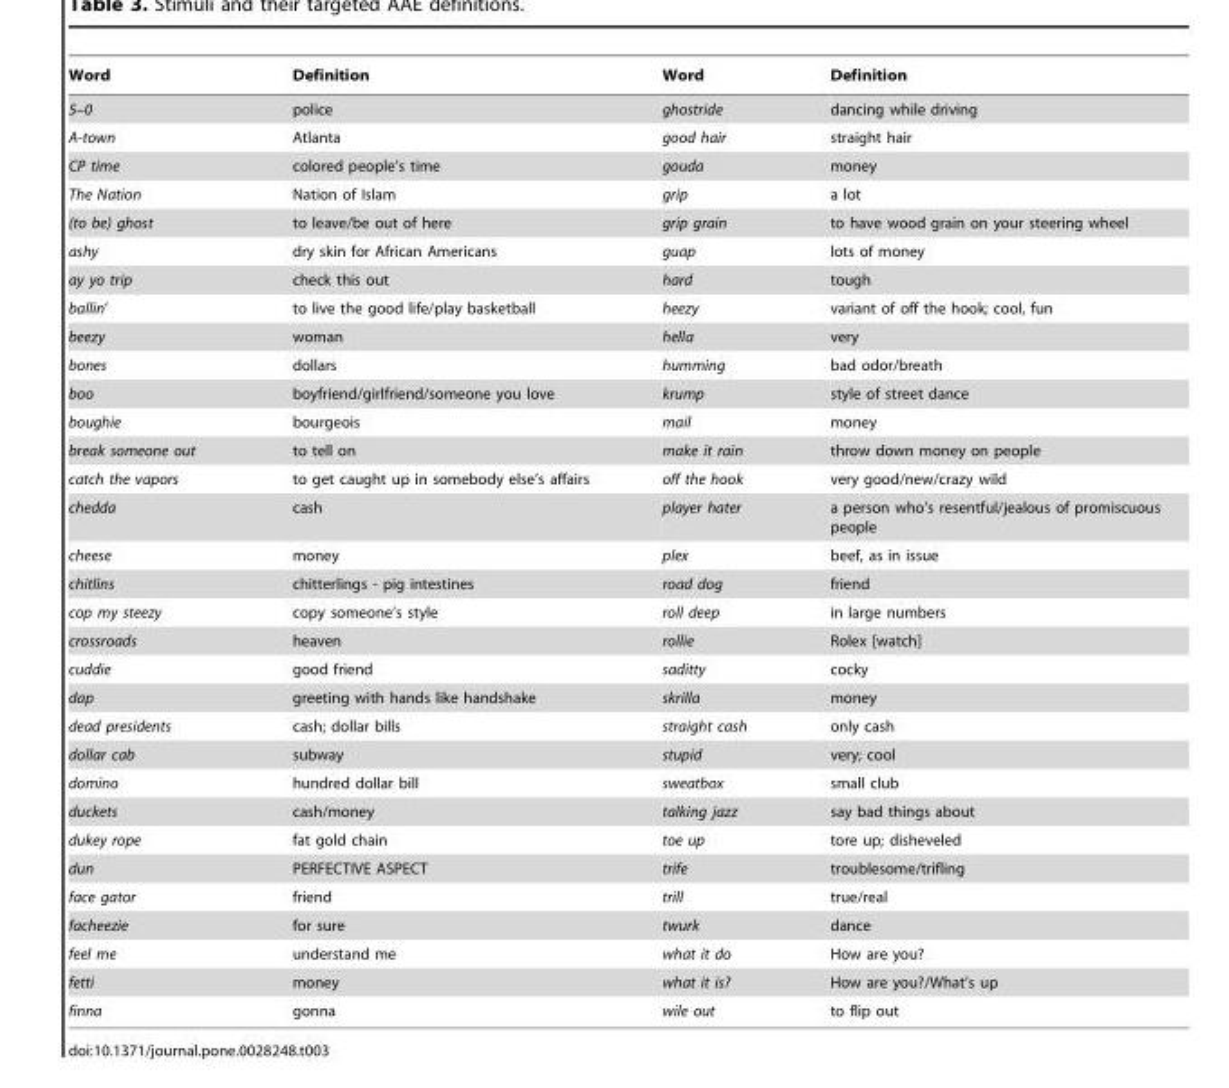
<table><thead><tr><td>Word</td><td>Definition</td><td>Word</td><td>Definition</td></tr></thead><tbody><tr><td>5–0</td><td>police</td><td>ghostride</td><td>dancing while driving</td></tr><tr><td>A-town</td><td>Atlanta</td><td>good hair</td><td>straight hair</td></tr><tr><td>CP time</td><td>colored people’s time</td><td>gouda</td><td>money</td></tr><tr><td>The Nation</td><td>Nation of Islam</td><td>grip</td><td>a lot</td></tr><tr><td>(to be) ghost</td><td>to leave/be out of here</td><td>grip grain</td><td>to have wood grain on your steering wheel</td></tr><tr><td>ashy</td><td>dry skin for African Americans</td><td>guap</td><td>lots of money</td></tr><tr><td>ay yo trip</td><td>check this out</td><td>hard</td><td>tough</td></tr><tr><td>ballin’</td><td>to live the good life/play basketball</td><td>heezy</td><td>variant of off the hook; cool, fun</td></tr><tr><td>beezy</td><td>woman</td><td>hella</td><td>very</td></tr><tr><td>bones</td><td>dollars</td><td>humming</td><td>bad odor/breath</td></tr><tr><td>boo</td><td>boyfriend/girlfriend/someone you love</td><td>krump</td><td>style of street dance</td></tr><tr><td>boughie</td><td>bourgeois</td><td>mail</td><td>money</td></tr><tr><td>break someone out</td><td>to tell on</td><td>make it rain</td><td>throw down money on people</td></tr><tr><td>catch the vapors</td><td>to get caught up in somebody else’s affairs</td><td>off the hook</td><td>very good/new/crazy wild</td></tr><tr><td>chedda</td><td>cash</td><td>player hater</td><td>a person who’s resentful/jealous of promiscuous people</td></tr><tr><td>cheese</td><td>money</td><td>plex</td><td>beef, as in issue</td></tr><tr><td>chitlins</td><td>chitterlings - pig intestines</td><td>road dog</td><td>friend</td></tr><tr><td>cop my steezy</td><td>copy someone’s style</td><td>roll deep</td><td>in large numbers</td></tr><tr><td>crossroads</td><td>heaven</td><td>rollie</td><td>Rolex [watch]</td></tr><tr><td>cuddie</td><td>good friend</td><td>saditty</td><td>cocky</td></tr><tr><td>dap</td><td>greeting with hands like handshake</td><td>skrilla</td><td>money</td></tr><tr><td>dead presidents</td><td>cash; dollar bills</td><td>straight cash</td><td>only cash</td></tr><tr><td>dollar cab</td><td>subway</td><td>stupid</td><td>very; cool</td></tr><tr><td>domino</td><td>hundred dollar bill</td><td>sweatbox</td><td>small club</td></tr><tr><td>duckets</td><td>cash/money</td><td>talking jazz</td><td>say bad things about</td></tr><tr><td>dukey rope</td><td>fat gold chain</td><td>toe up</td><td>tore up; disheveled</td></tr><tr><td>dun</td><td>PERFECTIVE ASPECT</td><td>trife</td><td>troublesome/trifling</td></tr><tr><td>face gator</td><td>friend</td><td>trill</td><td>true/real</td></tr><tr><td>facheezie</td><td>for sure</td><td>twurk</td><td>dance</td></tr><tr><td>feel me</td><td>understand me</td><td>what it do</td><td>How are you?</td></tr><tr><td>fetti</td><td>money</td><td>what it is?</td><td>How are you?/What’s up</td></tr><tr><td>finna</td><td>gonna</td><td>wile out</td><td>to flip out</td></tr></tbody></table>